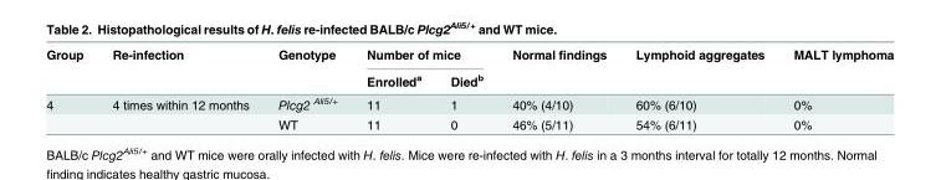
<table><thead><tr><td rowspan="2">Group</td><td rowspan="2">Re-infection</td><td rowspan="2">Genotype</td><td colspan="2">Number of mice</td><td rowspan="2">Normal findings</td><td rowspan="2">Lymphoid aggregates</td><td rowspan="2">MALT lymphoma</td></tr><tr><td>Enrolled<sup>a</sup></td><td>Died<sup>b</sup></td></tr></thead><tbody><tr><td rowspan="2">4</td><td>4 times within 12 months</td><td>Plcg2 <sup>Ali5/+</sup></td><td>11</td><td>1</td><td>40% (4/10)</td><td>60% (6/10)</td><td>0%</td></tr><tr><td></td><td>WT</td><td>11</td><td>0</td><td>46% (5/11)</td><td>54% (6/11)</td><td>0%</td></tr></tbody></table>